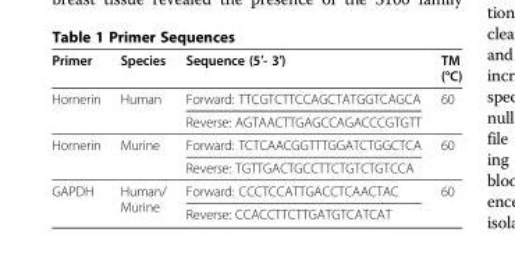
<table><thead><tr><td>Primer</td><td>Species</td><td>Sequence (5′- 3′)</td><td>TM (°C)</td></tr></thead><tbody><tr><td rowspan="2">Hornerin</td><td rowspan="2">Human</td><td>Forward: TTCGTCTTCCAGCTATGGTCAGCA</td><td rowspan="2">60</td></tr><tr><td>Reverse: AGTAACTTGAGCCAGACCCGTGTT</td></tr><tr><td rowspan="2">Hornerin</td><td rowspan="2">Murine</td><td>Forward: TCTCAACGGTTTGGATCTGGCTCA</td><td rowspan="2">60</td></tr><tr><td>Reverse: TGTTGACTGCCTTCTGTCTGTCCA</td></tr><tr><td rowspan="2">GAPDH</td><td rowspan="2">Human/ Murine</td><td>Forward: CCCTCCATTGACCTCAACTAC</td><td rowspan="2">60</td></tr><tr><td>Reverse: CCACCTTCTTGATGTCATCAT</td></tr></tbody></table>